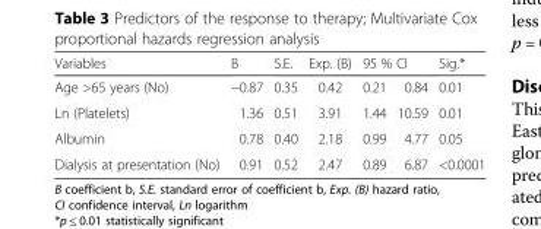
<table><thead><tr><td rowspan="2">Variables Age &gt;65 years (No)</td><td rowspan="2">B −0.87</td><td rowspan="2">S.E. 0.35</td><td rowspan="2">Exp. (B) 0.42</td><td colspan="2">95 % CI</td><td rowspan="2">Sig.* 0.01</td></tr><tr><td>0.21</td><td>0.84</td></tr></thead><tbody><tr><td>Ln (Platelets)</td><td>1.36</td><td>0.51</td><td>3.91</td><td>1.44</td><td>10.59</td><td>0.01</td></tr><tr><td>Albumin</td><td>0.78</td><td>0.40</td><td>2.18</td><td>0.99</td><td>4.77</td><td>0.05</td></tr><tr><td>Dialysis at presentation (No)</td><td>0.91</td><td>0.52</td><td>2.47</td><td>0.89</td><td>6.87</td><td>&lt;0.0001</td></tr></tbody></table>